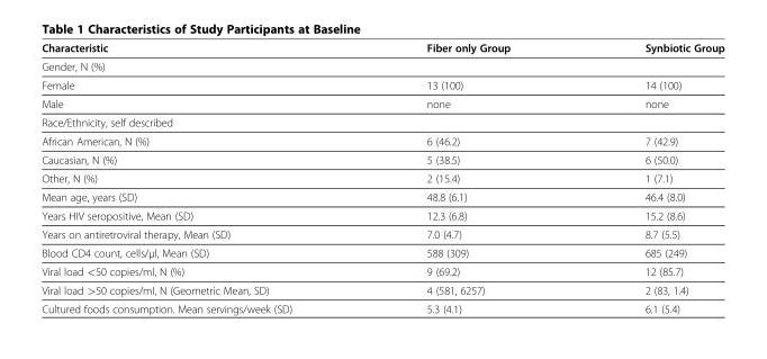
<table><thead><tr><td>Characteristic</td><td>Fiber only Group</td><td>Synbiotic Group</td></tr></thead><tbody><tr><td colspan="3">Gender, N (%)</td></tr><tr><td>Female</td><td>13 (100)</td><td>14 (100)</td></tr><tr><td>Male</td><td>none</td><td>none</td></tr><tr><td colspan="3">Race/Ethnicity, self described</td></tr><tr><td>African American, N (%)</td><td>6 (46.2)</td><td>7 (42.9)</td></tr><tr><td>Caucasian, N (%)</td><td>5 (38.5)</td><td>6 (50.0)</td></tr><tr><td>Other, N (%)</td><td>2 (15.4)</td><td>1 (7.1)</td></tr><tr><td>Mean age, years (SD)</td><td>48.8 (6.1)</td><td>46.4 (8.0)</td></tr><tr><td>Years HIV seropositive, Mean (SD)</td><td>12.3 (6.8)</td><td>15.2 (8.6)</td></tr><tr><td>Years on antiretroviral therapy, Mean (SD)</td><td>7.0 (4.7)</td><td>8.7 (5.5)</td></tr><tr><td>Blood CD4 count, cells/μl, Mean (SD)</td><td>588 (309)</td><td>685 (249)</td></tr><tr><td>Viral load &lt;50 copies/ml, N (%)</td><td>9 (69.2)</td><td>12 (85.7)</td></tr><tr><td>Viral load &gt;50 copies/ml, N (Geometric Mean, SD)</td><td>4 (581, 6257)</td><td>2 (83, 1.4)</td></tr><tr><td>Cultured foods consumption. Mean servings/week (SD)</td><td>5.3 (4.1)</td><td>6.1 (5.4)</td></tr></tbody></table>